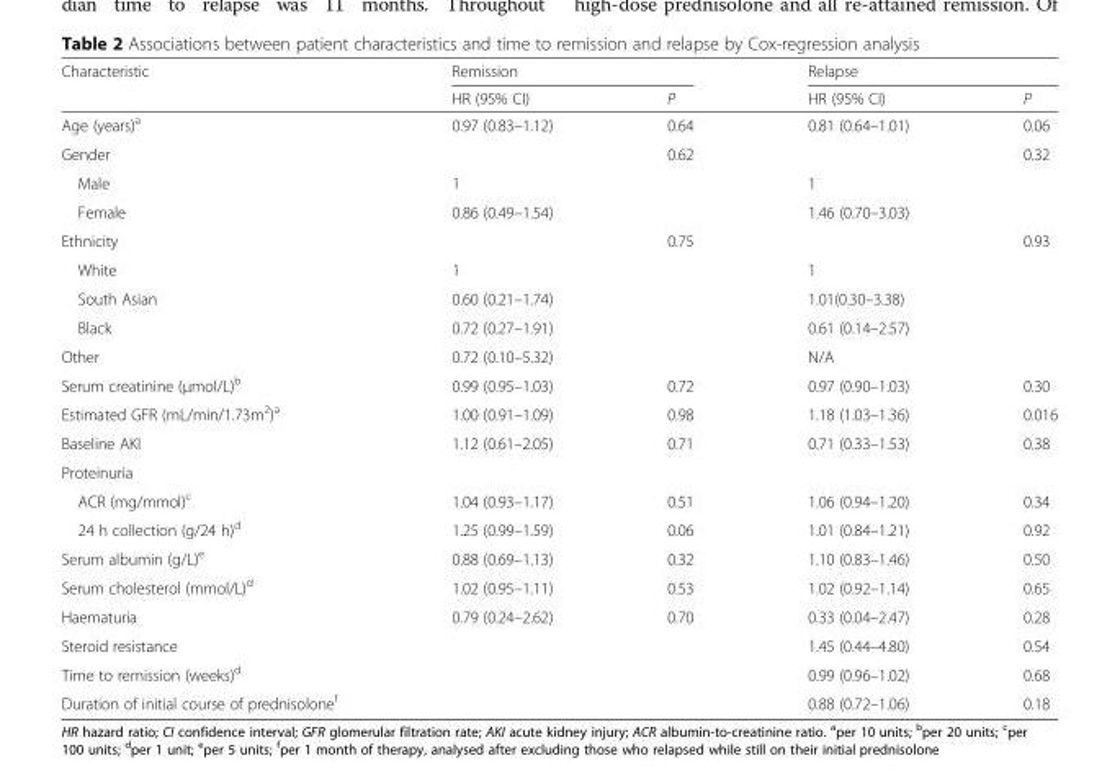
<table><thead><tr><td rowspan="2">Characteristic</td><td colspan="2">Remission</td><td colspan="2">Relapse</td></tr><tr><td>HR (95% CI)</td><td>P</td><td>HR (95% CI)</td><td>P</td></tr></thead><tbody><tr><td>Age (years)<sup>a</sup></td><td>0.97 (0.83–1.12)</td><td>0.64</td><td>0.81 (0.64–1.01)</td><td>0.06</td></tr><tr><td>Gender</td><td></td><td>0.62</td><td></td><td>0.32</td></tr><tr><td>Male</td><td>1</td><td></td><td>1</td><td></td></tr><tr><td>Female</td><td>0.86 (0.49–1.54)</td><td></td><td>1.46 (0.70–3.03)</td><td></td></tr><tr><td>Ethnicity</td><td></td><td>0.75</td><td></td><td>0.93</td></tr><tr><td>White</td><td>1</td><td></td><td>1</td><td></td></tr><tr><td>South Asian</td><td>0.60 (0.21–1.74)</td><td></td><td>1.01(0.30–3.38)</td><td></td></tr><tr><td>Black</td><td>0.72 (0.27–1.91)</td><td></td><td>0.61 (0.14–2.57)</td><td></td></tr><tr><td>Other</td><td>0.72 (0.10–5.32)</td><td></td><td>N/A</td><td></td></tr><tr><td>Serum creatinine (μmol/L)<sup>b</sup></td><td>0.99 (0.95–1.03)</td><td>0.72</td><td>0.97 (0.90–1.03)</td><td>0.30</td></tr><tr><td>Estimated GFR (mL/min/1.73m<sup>2</sup>)<sup>a</sup></td><td>1.00 (0.91–1.09)</td><td>0.98</td><td>1.18 (1.03–1.36)</td><td>0.016</td></tr><tr><td>Baseline AKI</td><td>1.12 (0.61–2.05)</td><td>0.71</td><td>0.71 (0.33–1.53)</td><td>0.38</td></tr><tr><td colspan="5">Proteinuria</td></tr><tr><td>ACR (mg/mmol)<sup>c</sup></td><td>1.04 (0.93–1.17)</td><td>0.51</td><td>1.06 (0.94–1.20)</td><td>0.34</td></tr><tr><td>24 h collection (g/24 h)<sup>d</sup></td><td>1.25 (0.99–1.59)</td><td>0.06</td><td>1.01 (0.84–1.21)</td><td>0.92</td></tr><tr><td>Serum albumin (g/L)<sup>e</sup></td><td>0.88 (0.69–1.13)</td><td>0.32</td><td>1.10 (0.83–1.46)</td><td>0.50</td></tr><tr><td>Serum cholesterol (mmol/L)<sup>d</sup></td><td>1.02 (0.95–1.11)</td><td>0.53</td><td>1.02 (0.92–1.14)</td><td>0.65</td></tr><tr><td>Haematuria</td><td>0.79 (0.24–2.62)</td><td>0.70</td><td>0.33 (0.04–2.47)</td><td>0.28</td></tr><tr><td>Steroid resistance</td><td rowspan="3" colspan="2"></td><td>1.45 (0.44–4.80)</td><td>0.54</td></tr><tr><td>Time to remission (weeks)<sup>d</sup></td><td>0.99 (0.96–1.02)</td><td>0.68</td></tr><tr><td>Duration of initial course of prednisolone<sup>f</sup></td><td>0.88 (0.72–1.06)</td><td>0.18</td></tr></tbody></table>